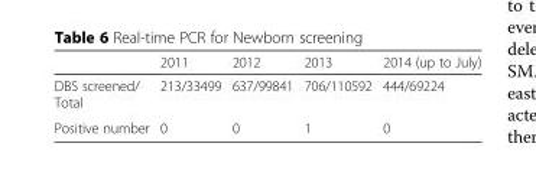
<table><thead><tr><td></td><td>2011</td><td>2012</td><td>2013</td><td>2014 (up to July)</td></tr></thead><tbody><tr><td>DBS screened/ Total</td><td>213/33499</td><td>637/99841</td><td>706/110592</td><td>444/69224</td></tr><tr><td>Positive number</td><td>0</td><td>0</td><td>1</td><td>0</td></tr></tbody></table>